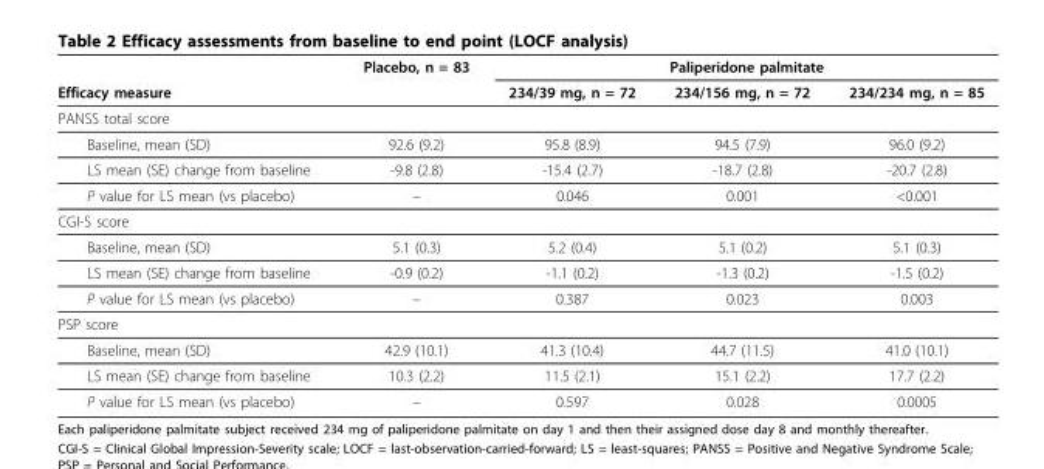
<table><thead><tr><td rowspan="2">Efficacy measure</td><td rowspan="2">Placebo, n = 83</td><td colspan="3">Paliperidone palmitate</td></tr><tr><td>234/39 mg, n = 72</td><td>234/156 mg, n = 72</td><td>234/234 mg, n = 85</td></tr></thead><tbody><tr><td colspan="5">PANSS total score</td></tr><tr><td>Baseline, mean (SD)</td><td>92.6 (9.2)</td><td>95.8 (8.9)</td><td>94.5 (7.9)</td><td>96.0 (9.2)</td></tr><tr><td>LS mean (SE) change from baseline</td><td>-9.8 (2.8)</td><td>-15.4 (2.7)</td><td>-18.7 (2.8)</td><td>-20.7 (2.8)</td></tr><tr><td>P value for LS mean (vs placebo)</td><td>–</td><td>0.046</td><td>0.001</td><td>&lt;0.001</td></tr><tr><td colspan="5">CGI-S score</td></tr><tr><td>Baseline, mean (SD)</td><td>5.1 (0.3)</td><td>5.2 (0.4)</td><td>5.1 (0.2)</td><td>5.1 (0.3)</td></tr><tr><td>LS mean (SE) change from baseline</td><td>-0.9 (0.2)</td><td>-1.1 (0.2)</td><td>-1.3 (0.2)</td><td>-1.5 (0.2)</td></tr><tr><td>P value for LS mean (vs placebo)</td><td>–</td><td>0.387</td><td>0.023</td><td>0.003</td></tr><tr><td colspan="5">PSP score</td></tr><tr><td>Baseline, mean (SD)</td><td>42.9 (10.1)</td><td>41.3 (10.4)</td><td>44.7 (11.5)</td><td>41.0 (10.1)</td></tr><tr><td>LS mean (SE) change from baseline</td><td>10.3 (2.2)</td><td>11.5 (2.1)</td><td>15.1 (2.2)</td><td>17.7 (2.2)</td></tr><tr><td>P value for LS mean (vs placebo)</td><td>–</td><td>0.597</td><td>0.028</td><td>0.0005</td></tr></tbody></table>